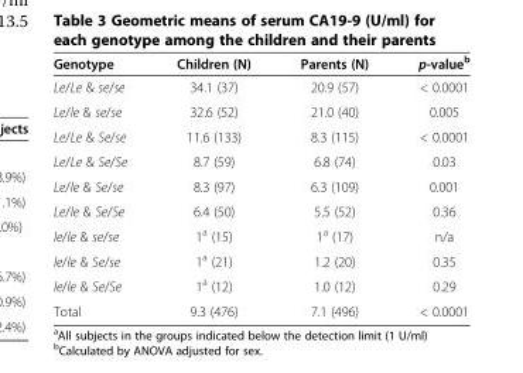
<table><thead><tr><td>Genotype</td><td>Children (N)</td><td>Parents (N)</td><td>p-value<sup>b</sup></td></tr></thead><tbody><tr><td>Le/Le &amp; se/se</td><td>34.1 (37)</td><td>20.9 (57)</td><td>&lt; 0.0001</td></tr><tr><td>Le/le &amp; se/se</td><td>32.6 (52)</td><td>21.0 (40)</td><td>0.005</td></tr><tr><td>Le/Le &amp; Se/se</td><td>11.6 (133)</td><td>8.3 (115)</td><td>&lt; 0.0001</td></tr><tr><td>Le/Le &amp; Se/Se</td><td>8.7 (59)</td><td>6.8 (74)</td><td>0.03</td></tr><tr><td>Le/le &amp; Se/se</td><td>8.3 (97)</td><td>6.3 (109)</td><td>0.001</td></tr><tr><td>Le/le &amp; Se/Se</td><td>6.4 (50)</td><td>5.5 (52)</td><td>0.36</td></tr><tr><td>le/le &amp; se/se</td><td>1<sup>a</sup> (15)</td><td>1<sup>a</sup> (17)</td><td>n/a</td></tr><tr><td>le/le &amp; Se/se</td><td>1<sup>a</sup> (21)</td><td>1.2 (20)</td><td>0.35</td></tr><tr><td>le/le &amp; Se/Se</td><td>1<sup>a</sup> (12)</td><td>1.0 (12)</td><td>0.29</td></tr><tr><td>Total</td><td>9.3 (476)</td><td>7.1 (496)</td><td>&lt; 0.0001</td></tr></tbody></table>